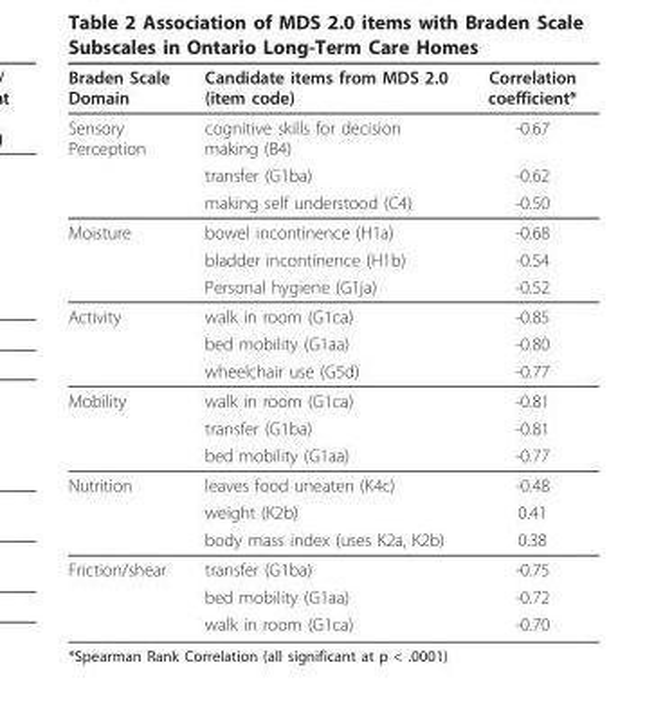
<table><thead><tr><td>Braden Scale Domain</td><td>Candidate items from MDS 2.0 (item code)</td><td>Correlation coefficient*</td></tr></thead><tbody><tr><td rowspan="3">Sensory Perception</td><td>cognitive skills for decision making (B4)</td><td>-0.67</td></tr><tr><td>transfer (G1ba)</td><td>-0.62</td></tr><tr><td>making self understood (C4)</td><td>-0.50</td></tr><tr><td rowspan="3">Moisture</td><td>bowel incontinence (H1a)</td><td>-0.68</td></tr><tr><td>bladder incontinence (H1b)</td><td>-0.54</td></tr><tr><td>Personal hygiene (G1ja)</td><td>-0.52</td></tr><tr><td rowspan="3">Activity</td><td>walk in room (G1ca)</td><td>-0.85</td></tr><tr><td>bed mobility (G1aa)</td><td>-0.80</td></tr><tr><td>wheelchair use (G5d)</td><td>-0.77</td></tr><tr><td rowspan="3">Mobility</td><td>walk in room (G1ca)</td><td>-0.81</td></tr><tr><td>transfer (G1ba)</td><td>-0.81</td></tr><tr><td>bed mobility (G1aa)</td><td>-0.77</td></tr><tr><td rowspan="3">Nutrition</td><td>leaves food uneaten (K4c)</td><td>-0.48</td></tr><tr><td>weight (K2b)</td><td>0.41</td></tr><tr><td>body mass index (uses K2a, K2b)</td><td>0.38</td></tr><tr><td rowspan="3">Friction/shear</td><td>transfer (G1ba)</td><td>-0.75</td></tr><tr><td>bed mobility (G1aa)</td><td>-0.72</td></tr><tr><td>walk in room (G1ca)</td><td>-0.70</td></tr></tbody></table>